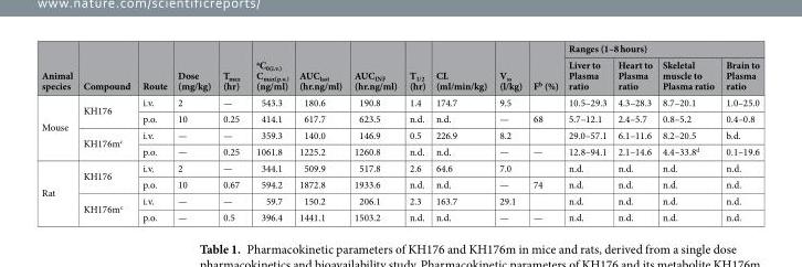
<table><thead><tr><td rowspan="2">Animal species</td><td rowspan="2">Compound</td><td rowspan="2">Route</td><td rowspan="2">Dose (mg/kg)</td><td rowspan="2">T<sub>max</sub> (hr)</td><td rowspan="2"><sup>a</sup>C<sub>0(i.v.)</sub> C<sub>max(p.o.)</sub> (ng/ml)</td><td rowspan="2">AUC<sub>last</sub> (hr.ng/ml)</td><td rowspan="2">AUC<sub>INF</sub> (hr.ng/ml)</td><td rowspan="2">T<sub>1/2</sub> (hr)</td><td rowspan="2">CL (ml/min/kg)</td><td rowspan="2">V<sub>ss</sub> (l/kg)</td><td rowspan="2">F<sup>b</sup> (%)</td><td colspan="4">Ranges (1–8 hours)</td></tr><tr><td>Liver to Plasma ratio</td><td>Heart to Plasma ratio</td><td>Skeletal muscle to Plasma ratio</td><td>Brain to Plasma ratio</td></tr></thead><tbody><tr><td rowspan="4">Mouse</td><td rowspan="2">KH176</td><td>i.v.</td><td>2</td><td>—</td><td>543.3</td><td>180.6</td><td>190.8</td><td>1.4</td><td>174.7</td><td>9.5</td><td></td><td>10.5–29.3</td><td>4.3–28.3</td><td>8.7–20.1</td><td>1.0–25.0</td></tr><tr><td>p.o.</td><td>10</td><td>0.25</td><td>414.1</td><td>617.7</td><td>623.5</td><td>n.d.</td><td>n.d.</td><td>—</td><td>68</td><td>5.7–12.1</td><td>2.4–5.7</td><td>0.8–5.2</td><td>0.4–0.8</td></tr><tr><td rowspan="2">KH176m<sup>c</sup></td><td>i.v.</td><td>—</td><td>—</td><td>359.3</td><td>140.0</td><td>146.9</td><td>0.5</td><td>226.9</td><td>8.2</td><td></td><td>29.0–57.1</td><td>6.1–11.6</td><td>8.2–20.5</td><td>b.d.</td></tr><tr><td>p.o.</td><td>—</td><td>0.25</td><td>1061.8</td><td>1225.2</td><td>1260.8</td><td>n.d.</td><td>n.d.</td><td>—</td><td>—</td><td>12.8–94.1</td><td>2.1–14.6</td><td>4.4–33.8<sup>d</sup></td><td>0.1–19.6</td></tr><tr><td rowspan="4">Rat</td><td rowspan="2">KH176</td><td>i.v.</td><td>2</td><td>—</td><td>344.1</td><td>509.9</td><td>517.8</td><td>2.6</td><td>64.6</td><td>7.0</td><td></td><td>n.d.</td><td>n.d.</td><td>n.d.</td><td>n.d.</td></tr><tr><td>p.o.</td><td>10</td><td>0.67</td><td>594.2</td><td>1872.8</td><td>1933.6</td><td>n.d.</td><td>n.d.</td><td>—</td><td>74</td><td>n.d.</td><td>n.d.</td><td>n.d.</td><td>n.d.</td></tr><tr><td rowspan="2">KH176m<sup>c</sup></td><td>i.v.</td><td>—</td><td>—</td><td>59.7</td><td>150.2</td><td>206.1</td><td>2.3</td><td>163.7</td><td>29.1</td><td></td><td>n.d.</td><td>n.d.</td><td>n.d.</td><td>n.d.</td></tr><tr><td>p.o.</td><td>—</td><td>0.5</td><td>396.4</td><td>1441.1</td><td>1503.2</td><td>n.d.</td><td>n.d.</td><td>—</td><td>—</td><td>n.d.</td><td>n.d.</td><td>n.d.</td><td>n.d.</td></tr></tbody></table>